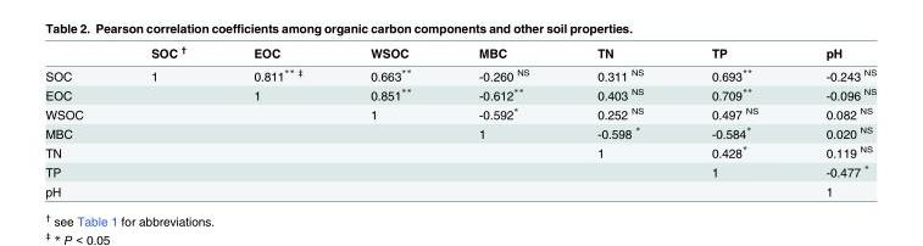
<table><thead><tr><td></td><td>SOC <sup>†</sup></td><td>EOC</td><td>WSOC</td><td>MBC</td><td>TN</td><td>TP</td><td>pH</td></tr></thead><tbody><tr><td>SOC</td><td>1</td><td>0.811<sup>** ‡</sup></td><td>0.663**</td><td>-0.260 <sup>NS</sup></td><td>0.311 <sup>NS</sup></td><td>0.693**</td><td>-0.243 <sup>NS</sup></td></tr><tr><td>EOC</td><td></td><td>1</td><td>0.851**</td><td>-0.612**</td><td>0.403 <sup>NS</sup></td><td>0.709**</td><td>-0.096 <sup>NS</sup></td></tr><tr><td>WSOC</td><td></td><td></td><td>1</td><td>-0.592*</td><td>0.252 <sup>NS</sup></td><td>0.497 <sup>NS</sup></td><td>0.082 <sup>NS</sup></td></tr><tr><td>MBC</td><td></td><td></td><td></td><td>1</td><td>-0.598 *</td><td>-0.584*</td><td>0.020 <sup>NS</sup></td></tr><tr><td>TN</td><td></td><td></td><td></td><td></td><td>1</td><td>0.428*</td><td>0.119 <sup>NS</sup></td></tr><tr><td>TP</td><td></td><td></td><td></td><td></td><td></td><td>1</td><td>-0.477 *</td></tr><tr><td>pH</td><td></td><td></td><td></td><td></td><td></td><td></td><td>1</td></tr></tbody></table>